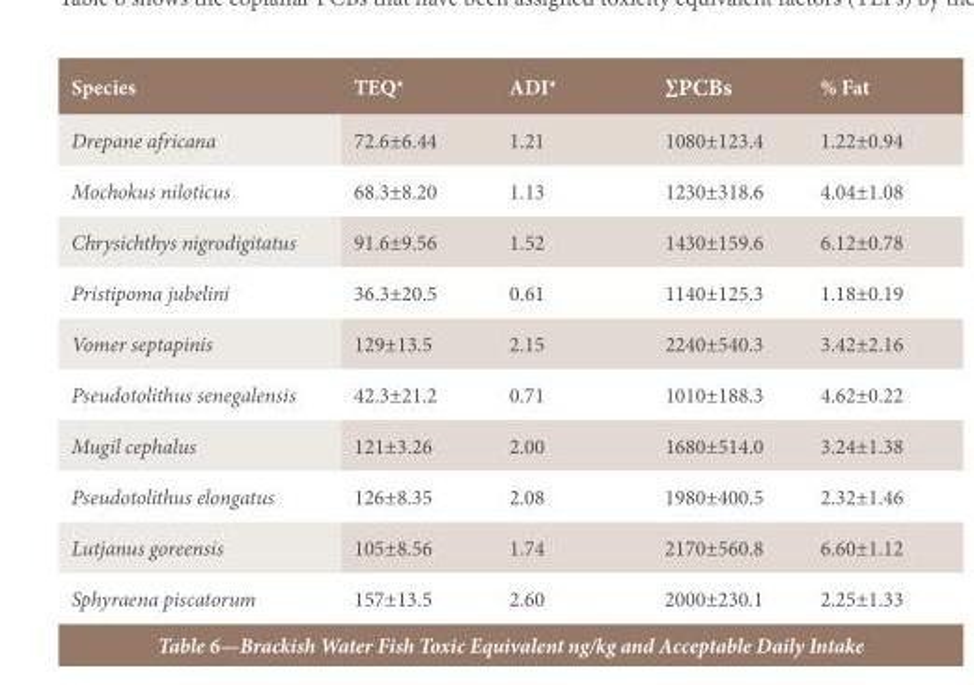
<table><thead><tr><td>Species</td><td>TEQ*</td><td>ADI*</td><td>∑PCBs</td><td>% Fat</td></tr></thead><tbody><tr><td>Drepane africana</td><td>72.6±6.44</td><td>1.21</td><td>1080±123.4</td><td>1.22±0.94</td></tr><tr><td>Mochokus niloticus</td><td>68.3±8.20</td><td>1.13</td><td>1230±318.6</td><td>4.04±1.08</td></tr><tr><td>Chrysichthys nigrodigitatus</td><td>91.6±9.56</td><td>1.52</td><td>1430±159.6</td><td>6.12±0.78</td></tr><tr><td>Pristipoma jubelini</td><td>36.3±20.5</td><td>0.61</td><td>1140±125.3</td><td>1.18±0.19</td></tr><tr><td>Vomer septapinis</td><td>129±13.5</td><td>2.15</td><td>2240±540.3</td><td>3.42±2.16</td></tr><tr><td>Pseudotolithus senegalensis</td><td>42.3±21.2</td><td>0.71</td><td>1010±188.3</td><td>4.62±0.22</td></tr><tr><td>Mugil cephalus</td><td>121±3.26</td><td>2.00</td><td>1680±514.0</td><td>3.24±1.38</td></tr><tr><td>Pseudotolithus elongatus</td><td>126±8.35</td><td>2.08</td><td>1980±400.5</td><td>2.32±1.46</td></tr><tr><td>Lutjanus goreensis</td><td>105±8.56</td><td>1.74</td><td>2170±560.8</td><td>6.60±1.12</td></tr><tr><td>Sphyraena piscatorum</td><td>157±13.5</td><td>2.60</td><td>2000±230.1</td><td>2.25±1.33</td></tr></tbody></table>